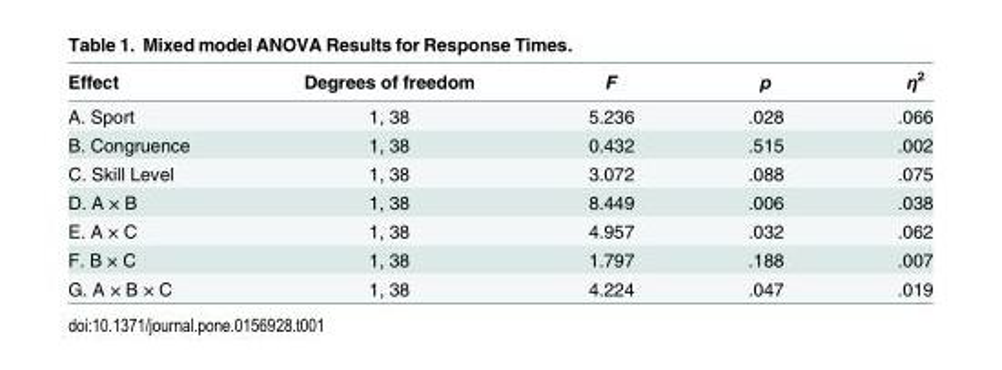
<table><thead><tr><td>Effect</td><td>Degrees of freedom</td><td>F</td><td>p</td><td>η<sup>2</sup></td></tr></thead><tbody><tr><td>A. Sport</td><td>1, 38</td><td>5.236</td><td>.028</td><td>.066</td></tr><tr><td>B. Congruence</td><td>1, 38</td><td>0.432</td><td>.515</td><td>.002</td></tr><tr><td>C. Skill Level</td><td>1, 38</td><td>3.072</td><td>.088</td><td>.075</td></tr><tr><td>D. A × B</td><td>1, 38</td><td>8.449</td><td>.006</td><td>.038</td></tr><tr><td>E. A × C</td><td>1, 38</td><td>4.957</td><td>.032</td><td>.062</td></tr><tr><td>F. B × C</td><td>1, 38</td><td>1.797</td><td>.188</td><td>.007</td></tr><tr><td>G. A × B × C</td><td>1, 38</td><td>4.224</td><td>.047</td><td>.019</td></tr></tbody></table>